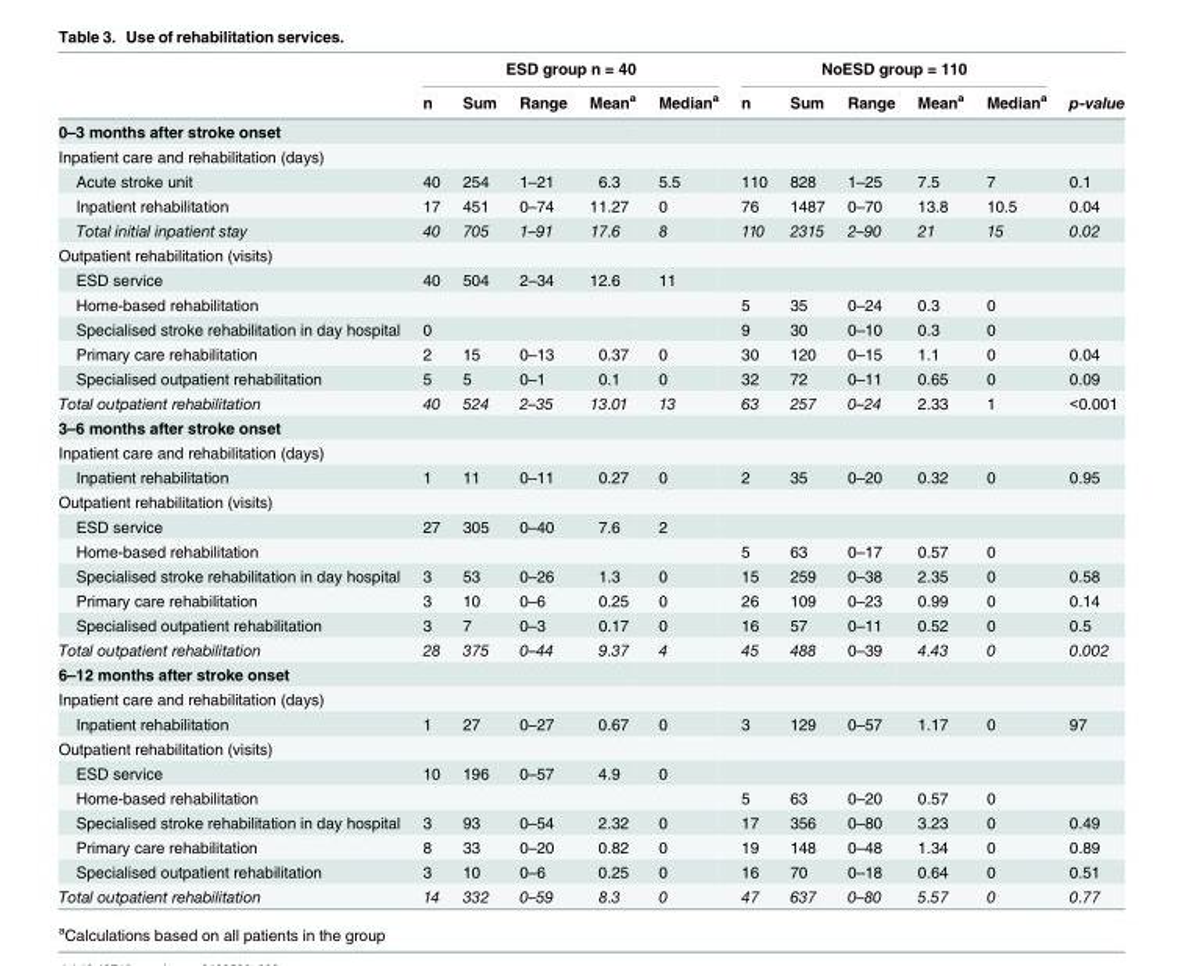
<table><thead><tr><td rowspan="2"></td><td colspan="5">ESD group n = 40</td><td colspan="5">NoESD group = 110</td><td rowspan="2">p-value</td></tr><tr><td>n</td><td>Sum</td><td>Range</td><td>Mean<sup>a</sup></td><td>Median<sup>a</sup></td><td>n</td><td>Sum</td><td>Range</td><td>Mean<sup>a</sup></td><td>Median<sup>a</sup></td></tr></thead><tbody><tr><td colspan="12">0–3 months after stroke onset</td></tr><tr><td colspan="12">Inpatient care and rehabilitation (days)</td></tr><tr><td>Acute stroke unit</td><td>40</td><td>254</td><td>1–21</td><td>6.3</td><td>5.5</td><td>110</td><td>828</td><td>1–25</td><td>7.5</td><td>7</td><td>0.1</td></tr><tr><td>Inpatient rehabilitation</td><td>17</td><td>451</td><td>0–74</td><td>11.27</td><td>0</td><td>76</td><td>1487</td><td>0–70</td><td>13.8</td><td>10.5</td><td>0.04</td></tr><tr><td>Total initial inpatient stay</td><td>40</td><td>705</td><td>1–91</td><td>17.6</td><td>8</td><td>110</td><td>2315</td><td>2–90</td><td>21</td><td>15</td><td>0.02</td></tr><tr><td colspan="12">Outpatient rehabilitation (visits)</td></tr><tr><td>ESD service</td><td>40</td><td>504</td><td>2–34</td><td>12.6</td><td>11</td><td></td><td></td><td></td><td></td><td></td><td></td></tr><tr><td>Home-based rehabilitation</td><td></td><td></td><td></td><td></td><td></td><td>5</td><td>35</td><td>0–24</td><td>0.3</td><td>0</td><td></td></tr><tr><td>Specialised stroke rehabilitation in day hospital</td><td>0</td><td></td><td></td><td></td><td></td><td>9</td><td>30</td><td>0–10</td><td>0.3</td><td>0</td><td></td></tr><tr><td>Primary care rehabilitation</td><td>2</td><td>15</td><td>0–13</td><td>0.37</td><td>0</td><td>30</td><td>120</td><td>0–15</td><td>1.1</td><td>0</td><td>0.04</td></tr><tr><td>Specialised outpatient rehabilitation</td><td>5</td><td>5</td><td>0–1</td><td>0.1</td><td>0</td><td>32</td><td>72</td><td>0–11</td><td>0.65</td><td>0</td><td>0.09</td></tr><tr><td>Total outpatient rehabilitation</td><td>40</td><td>524</td><td>2–35</td><td>13.01</td><td>13</td><td>63</td><td>257</td><td>0–24</td><td>2.33</td><td>1</td><td>&lt;0.001</td></tr><tr><td colspan="12">3–6 months after stroke onset</td></tr><tr><td colspan="12">Inpatient care and rehabilitation (days)</td></tr><tr><td>Inpatient rehabilitation</td><td>1</td><td>11</td><td>0–11</td><td>0.27</td><td>0</td><td>2</td><td>35</td><td>0–20</td><td>0.32</td><td>0</td><td>0.95</td></tr><tr><td colspan="12">Outpatient rehabilitation (visits)</td></tr><tr><td>ESD service</td><td>27</td><td>305</td><td>0–40</td><td>7.6</td><td>2</td><td></td><td></td><td></td><td></td><td></td><td></td></tr><tr><td>Home-based rehabilitation</td><td></td><td></td><td></td><td></td><td></td><td>5</td><td>63</td><td>0–17</td><td>0.57</td><td>0</td><td></td></tr><tr><td>Specialised stroke rehabilitation in day hospital</td><td>3</td><td>53</td><td>0–26</td><td>1.3</td><td>0</td><td>15</td><td>259</td><td>0–38</td><td>2.35</td><td>0</td><td>0.58</td></tr><tr><td>Primary care rehabilitation</td><td>3</td><td>10</td><td>0–6</td><td>0.25</td><td>0</td><td>26</td><td>109</td><td>0–23</td><td>0.99</td><td>0</td><td>0.14</td></tr><tr><td>Specialised outpatient rehabilitation</td><td>3</td><td>7</td><td>0–3</td><td>0.17</td><td>0</td><td>16</td><td>57</td><td>0–11</td><td>0.52</td><td>0</td><td>0.5</td></tr><tr><td>Total outpatient rehabilitation</td><td>28</td><td>375</td><td>0–44</td><td>9.37</td><td>4</td><td>45</td><td>488</td><td>0–39</td><td>4.43</td><td>0</td><td>0.002</td></tr><tr><td colspan="12">6–12 months after stroke onset</td></tr><tr><td colspan="12">Inpatient care and rehabilitation (days)</td></tr><tr><td>Inpatient rehabilitation</td><td>1</td><td>27</td><td>0–27</td><td>0.67</td><td>0</td><td>3</td><td>129</td><td>0–57</td><td>1.17</td><td>0</td><td>97</td></tr><tr><td colspan="12">Outpatient rehabilitation (visits)</td></tr><tr><td>ESD service</td><td>10</td><td>196</td><td>0–57</td><td>4.9</td><td>0</td><td></td><td></td><td></td><td></td><td></td><td></td></tr><tr><td>Home-based rehabilitation</td><td></td><td></td><td></td><td></td><td></td><td>5</td><td>63</td><td>0–20</td><td>0.57</td><td>0</td><td></td></tr><tr><td>Specialised stroke rehabilitation in day hospital</td><td>3</td><td>93</td><td>0–54</td><td>2.32</td><td>0</td><td>17</td><td>356</td><td>0–80</td><td>3.23</td><td>0</td><td>0.49</td></tr><tr><td>Primary care rehabilitation</td><td>8</td><td>33</td><td>0–20</td><td>0.82</td><td>0</td><td>19</td><td>148</td><td>0–48</td><td>1.34</td><td>0</td><td>0.89</td></tr><tr><td>Specialised outpatient rehabilitation</td><td>3</td><td>10</td><td>0–6</td><td>0.25</td><td>0</td><td>16</td><td>70</td><td>0–18</td><td>0.64</td><td>0</td><td>0.51</td></tr><tr><td>Total outpatient rehabilitation</td><td>14</td><td>332</td><td>0–59</td><td>8.3</td><td>0</td><td>47</td><td>637</td><td>0–80</td><td>5.57</td><td>0</td><td>0.77</td></tr></tbody></table>